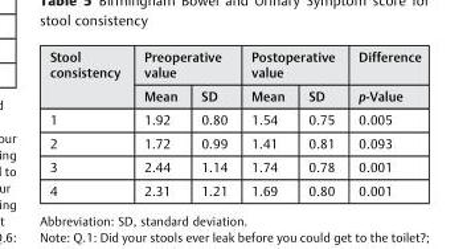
<table><thead><tr><td rowspan="2">Stool consistency</td><td colspan="2">Preoperative value</td><td colspan="2">Postoperative value</td><td rowspan="2">Difference p-Value</td></tr><tr><td>Mean</td><td>SD</td><td>Mean</td><td>SD</td></tr></thead><tbody><tr><td>1</td><td>1.92</td><td>0.80</td><td>1.54</td><td>0.75</td><td>0.005</td></tr><tr><td>2</td><td>1.72</td><td>0.99</td><td>1.41</td><td>0.81</td><td>0.093</td></tr><tr><td>3</td><td>2.44</td><td>1.14</td><td>1.74</td><td>0.78</td><td>0.001</td></tr><tr><td>4</td><td>2.31</td><td>1.21</td><td>1.69</td><td>0.80</td><td>0.001</td></tr></tbody></table>